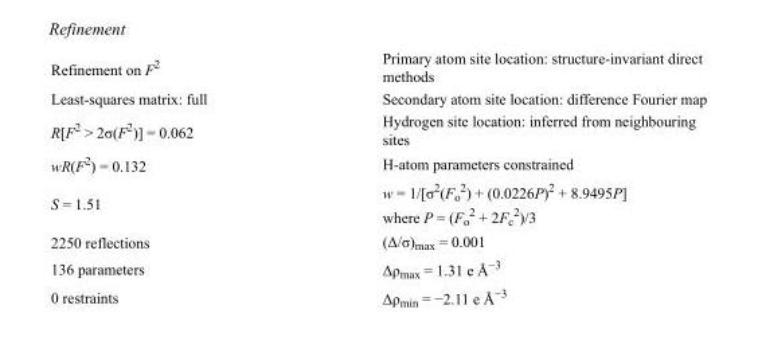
<table><tbody><tr><td>Refinement on F<sup>2</sup></td><td>Primary atom site location: structure-invariant direct methods</td></tr><tr><td>Least-squares matrix: full</td><td>Secondary atom site location: difference Fourier map</td></tr><tr><td>R[F<sup>2</sup> &gt; 2σ(F<sup>2</sup>)] = 0.062</td><td>Hydrogen site location: inferred from neighbouring sites</td></tr><tr><td>wR(F<sup>2</sup>) = 0.132</td><td>H-atom parameters constrained</td></tr><tr><td>S = 1.51</td><td>w = 1/[σ<sup>2</sup>(F<sub>o</sub> <sup>2</sup>) + (0.0226P)<sup>2</sup> + 8.9495P] where P = (F<sub>o</sub> <sup>2</sup> + 2F<sub>c</sub> <sup>2</sup>)/3</td></tr><tr><td>2250 reflections</td><td>(Δ/σ)<sub>max</sub> = 0.001</td></tr><tr><td>136 parameters</td><td>Δρ<sub>max</sub> = 1.31 e Å<sup>−3</sup></td></tr><tr><td>0 restraints</td><td>Δρ<sub>min</sub> = −2.11 e Å<sup>−3</sup></td></tr></tbody></table>